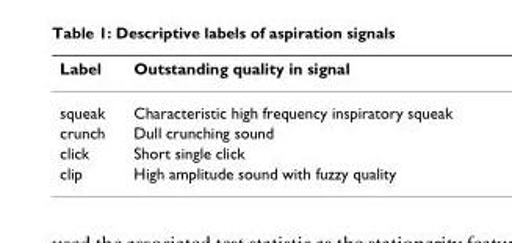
<table><thead><tr><td>Label</td><td>Outstanding quality in signal</td></tr></thead><tbody><tr><td>squeak</td><td>Characteristic high frequency inspiratory squeak</td></tr><tr><td>crunch</td><td>Dull crunching sound</td></tr><tr><td>click</td><td>Short single click</td></tr><tr><td>clip</td><td>High amplitude sound with fuzzy quality</td></tr></tbody></table>